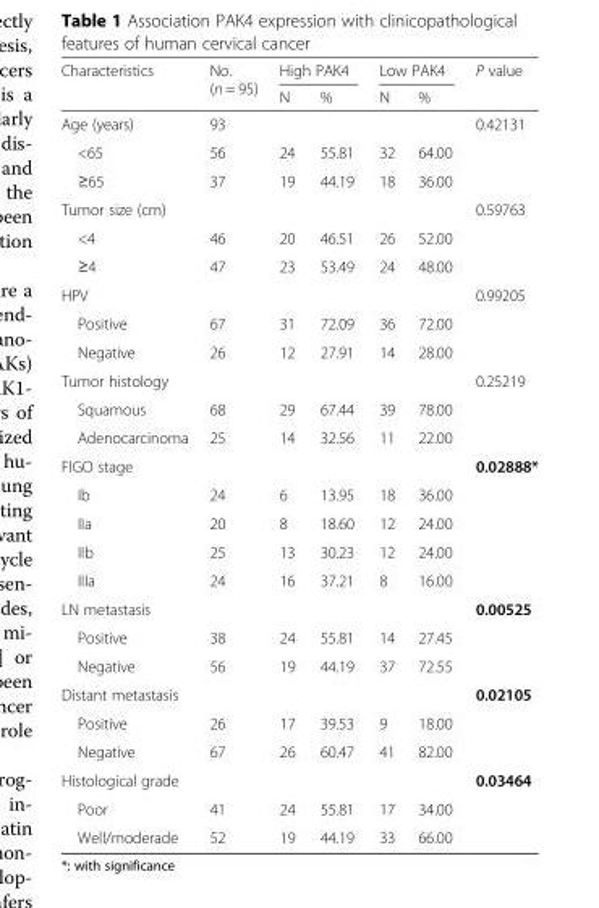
<table><thead><tr><td rowspan="2">Characteristics</td><td rowspan="2">No. (n = 95)</td><td colspan="2">High PAK4</td><td colspan="2">Low PAK4</td><td rowspan="2">P value</td></tr><tr><td>N</td><td>%</td><td>N</td><td>%</td></tr></thead><tbody><tr><td>Age (years)</td><td>93</td><td></td><td></td><td></td><td></td><td>0.42131</td></tr><tr><td>&lt;65</td><td>56</td><td>24</td><td>55.81</td><td>32</td><td>64.00</td><td></td></tr><tr><td>≥65</td><td>37</td><td>19</td><td>44.19</td><td>18</td><td>36.00</td><td></td></tr><tr><td>Tumor size (cm)</td><td></td><td></td><td></td><td></td><td></td><td>0.59763</td></tr><tr><td>&lt;4</td><td>46</td><td>20</td><td>46.51</td><td>26</td><td>52.00</td><td></td></tr><tr><td>≥4</td><td>47</td><td>23</td><td>53.49</td><td>24</td><td>48.00</td><td></td></tr><tr><td>HPV</td><td></td><td></td><td></td><td></td><td></td><td>0.99205</td></tr><tr><td>Positive</td><td>67</td><td>31</td><td>72.09</td><td>36</td><td>72.00</td><td></td></tr><tr><td>Negative</td><td>26</td><td>12</td><td>27.91</td><td>14</td><td>28.00</td><td></td></tr><tr><td>Tumor histology</td><td></td><td></td><td></td><td></td><td></td><td>0.25219</td></tr><tr><td>Squamous</td><td>68</td><td>29</td><td>67.44</td><td>39</td><td>78.00</td><td></td></tr><tr><td>Adenocarcinoma</td><td>25</td><td>14</td><td>32.56</td><td>11</td><td>22.00</td><td></td></tr><tr><td>FIGO stage</td><td></td><td></td><td></td><td></td><td></td><td>0.02888*</td></tr><tr><td>Ib</td><td>24</td><td>6</td><td>13.95</td><td>18</td><td>36.00</td><td></td></tr><tr><td>IIa</td><td>20</td><td>8</td><td>18.60</td><td>12</td><td>24.00</td><td></td></tr><tr><td>IIb</td><td>25</td><td>13</td><td>30.23</td><td>12</td><td>24.00</td><td></td></tr><tr><td>IIIa</td><td>24</td><td>16</td><td>37.21</td><td>8</td><td>16.00</td><td></td></tr><tr><td>LN metastasis</td><td></td><td></td><td></td><td></td><td></td><td>0.00525</td></tr><tr><td>Positive</td><td>38</td><td>24</td><td>55.81</td><td>14</td><td>27.45</td><td></td></tr><tr><td>Negative</td><td>56</td><td>19</td><td>44.19</td><td>37</td><td>72.55</td><td></td></tr><tr><td>Distant metastasis</td><td></td><td></td><td></td><td></td><td></td><td>0.02105</td></tr><tr><td>Positive</td><td>26</td><td>17</td><td>39.53</td><td>9</td><td>18.00</td><td></td></tr><tr><td>Negative</td><td>67</td><td>26</td><td>60.47</td><td>41</td><td>82.00</td><td></td></tr><tr><td>Histological grade</td><td></td><td></td><td></td><td></td><td></td><td>0.03464</td></tr><tr><td>Poor</td><td>41</td><td>24</td><td>55.81</td><td>17</td><td>34.00</td><td></td></tr><tr><td>Well/moderade</td><td>52</td><td>19</td><td>44.19</td><td>33</td><td>66.00</td><td></td></tr></tbody></table>